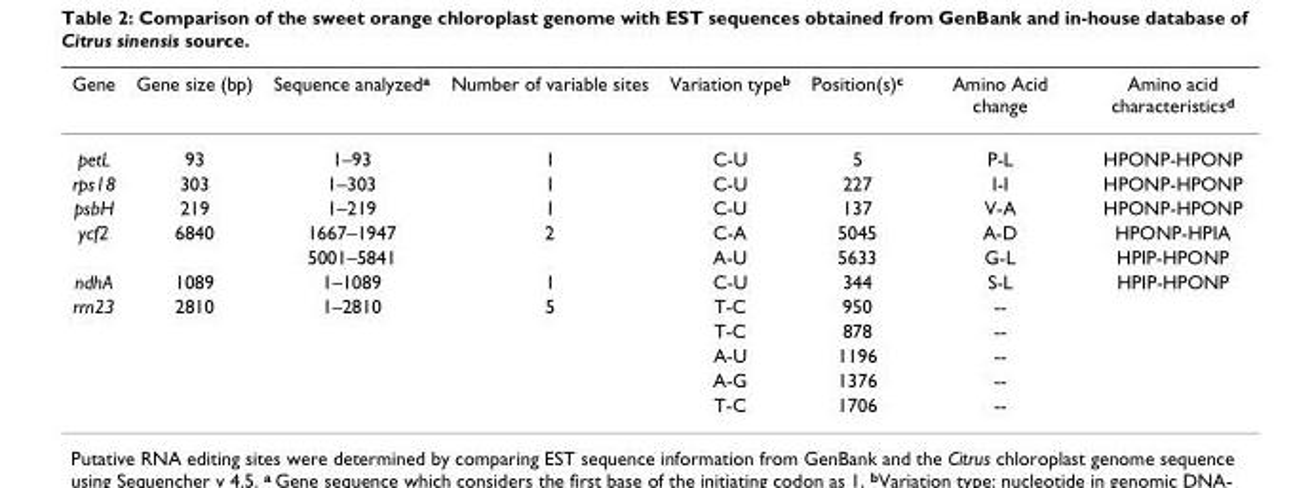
<table><thead><tr><td>Gene</td><td>Gene size (bp)</td><td>Sequence analyzeda</td><td>Number of variable sites</td><td>Variation typeb</td><td>Position(s)c</td><td>Amino Acid change</td><td>Amino acid characteristicsd</td></tr></thead><tbody><tr><td>petL</td><td>93</td><td>1–93</td><td>1</td><td>C-U</td><td>5</td><td>P-L</td><td>HPONP-HPONP</td></tr><tr><td>rps18</td><td>303</td><td>1–303</td><td>1</td><td>C-U</td><td>227</td><td>I-I</td><td>HPONP-HPONP</td></tr><tr><td>psbH</td><td>219</td><td>1–219</td><td>1</td><td>C-U</td><td>137</td><td>V-A</td><td>HPONP-HPONP</td></tr><tr><td rowspan="2">ycf2</td><td>6840</td><td>1667–1947</td><td>2</td><td>C-A</td><td>5045</td><td>A-D</td><td>HPONP-HPIA</td></tr><tr><td></td><td>5001–5841</td><td></td><td>A-U</td><td>5633</td><td>G-L</td><td>HPIP-HPONP</td></tr><tr><td>ndhA</td><td>1089</td><td>1–1089</td><td>1</td><td>C-U</td><td>344</td><td>S-L</td><td>HPIP-HPONP</td></tr><tr><td rowspan="5">rrn23</td><td>2810</td><td>1–2810</td><td>5</td><td>T-C</td><td>950</td><td>--</td><td></td></tr><tr><td></td><td></td><td></td><td>T-C</td><td>878</td><td>--</td><td></td></tr><tr><td></td><td></td><td></td><td>A-U</td><td>1196</td><td>--</td><td></td></tr><tr><td></td><td></td><td></td><td>A-G</td><td>1376</td><td>--</td><td></td></tr><tr><td></td><td></td><td></td><td>T-C</td><td>1706</td><td>--</td><td></td></tr></tbody></table>